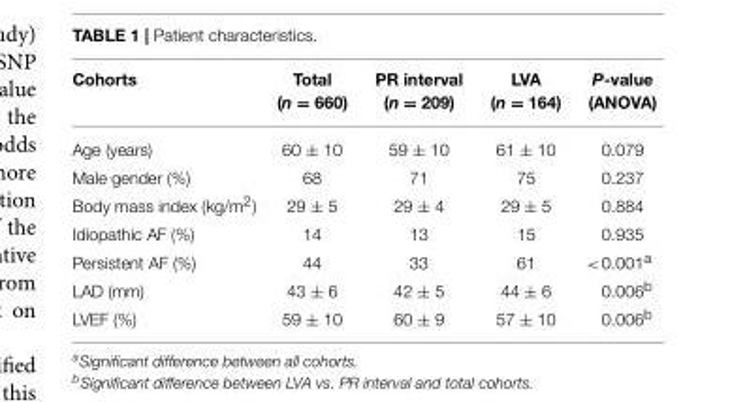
<table><thead><tr><td>Cohorts</td><td>Total (n = 660)</td><td>PR interval (n = 209)</td><td>LVA (n = 164)</td><td>P-value (ANOVA)</td></tr></thead><tbody><tr><td>Age (years)</td><td>60 ± 10</td><td>59 ± 10</td><td>61 ± 10</td><td>0.079</td></tr><tr><td>Male gender (%)</td><td>68</td><td>71</td><td>75</td><td>0.237</td></tr><tr><td>Body mass index (kg/m<sup>2</sup>)</td><td>29 ± 5</td><td>29 ± 4</td><td>29 ± 5</td><td>0.884</td></tr><tr><td>Idiopathic AF (%)</td><td>14</td><td>13</td><td>15</td><td>0.935</td></tr><tr><td>Persistent AF (%)</td><td>44</td><td>33</td><td>61</td><td>&lt;0.001<sup>a</sup></td></tr><tr><td>LAD (mm)</td><td>43 ± 6</td><td>42 ± 5</td><td>44 ± 6</td><td>0.006<sup>b</sup></td></tr><tr><td>LVEF (%)</td><td>59 ± 10</td><td>60 ± 9</td><td>57 ± 10</td><td>0.006<sup>b</sup></td></tr></tbody></table>